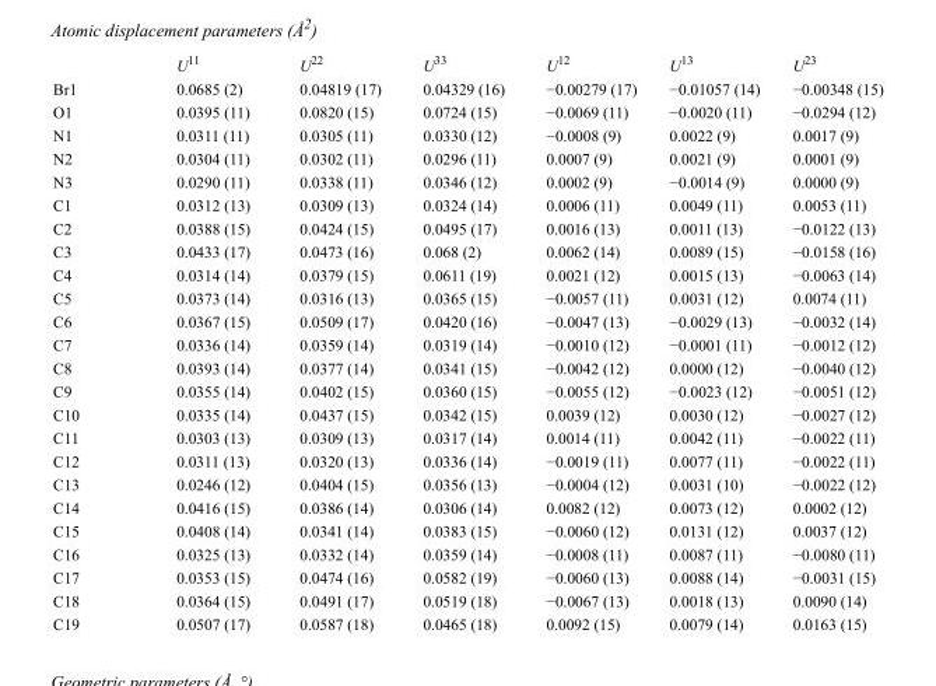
<table><thead><tr><td></td><td>U<sup>11</sup></td><td>U<sup>22</sup></td><td>U<sup>33</sup></td><td>U<sup>12</sup></td><td>U<sup>13</sup></td><td>U<sup>23</sup></td></tr></thead><tbody><tr><td>Br1</td><td>0.0685 (2)</td><td>0.04819 (17)</td><td>0.04329 (16)</td><td>−0.00279 (17)</td><td>−0.01057 (14)</td><td>−0.00348 (15)</td></tr><tr><td>O1</td><td>0.0395 (11)</td><td>0.0820 (15)</td><td>0.0724 (15)</td><td>−0.0069 (11)</td><td>−0.0020 (11)</td><td>−0.0294 (12)</td></tr><tr><td>N1</td><td>0.0311 (11)</td><td>0.0305 (11)</td><td>0.0330 (12)</td><td>−0.0008 (9)</td><td>0.0022 (9)</td><td>0.0017 (9)</td></tr><tr><td>N2</td><td>0.0304 (11)</td><td>0.0302 (11)</td><td>0.0296 (11)</td><td>0.0007 (9)</td><td>0.0021 (9)</td><td>0.0001 (9)</td></tr><tr><td>N3</td><td>0.0290 (11)</td><td>0.0338 (11)</td><td>0.0346 (12)</td><td>0.0002 (9)</td><td>−0.0014 (9)</td><td>0.0000 (9)</td></tr><tr><td>C1</td><td>0.0312 (13)</td><td>0.0309 (13)</td><td>0.0324 (14)</td><td>0.0006 (11)</td><td>0.0049 (11)</td><td>0.0053 (11)</td></tr><tr><td>C2</td><td>0.0388 (15)</td><td>0.0424 (15)</td><td>0.0495 (17)</td><td>0.0016 (13)</td><td>0.0011 (13)</td><td>−0.0122 (13)</td></tr><tr><td>C3</td><td>0.0433 (17)</td><td>0.0473 (16)</td><td>0.068 (2)</td><td>0.0062 (14)</td><td>0.0089 (15)</td><td>−0.0158 (16)</td></tr><tr><td>C4</td><td>0.0314 (14)</td><td>0.0379 (15)</td><td>0.0611 (19)</td><td>0.0021 (12)</td><td>0.0015 (13)</td><td>−0.0063 (14)</td></tr><tr><td>C5</td><td>0.0373 (14)</td><td>0.0316 (13)</td><td>0.0365 (15)</td><td>−0.0057 (11)</td><td>0.0031 (12)</td><td>0.0074 (11)</td></tr><tr><td>C6</td><td>0.0367 (15)</td><td>0.0509 (17)</td><td>0.0420 (16)</td><td>−0.0047 (13)</td><td>−0.0029 (13)</td><td>−0.0032 (14)</td></tr><tr><td>C7</td><td>0.0336 (14)</td><td>0.0359 (14)</td><td>0.0319 (14)</td><td>−0.0010 (12)</td><td>−0.0001 (11)</td><td>−0.0012 (12)</td></tr><tr><td>C8</td><td>0.0393 (14)</td><td>0.0377 (14)</td><td>0.0341 (15)</td><td>−0.0042 (12)</td><td>0.0000 (12)</td><td>−0.0040 (12)</td></tr><tr><td>C9</td><td>0.0355 (14)</td><td>0.0402 (15)</td><td>0.0360 (15)</td><td>−0.0055 (12)</td><td>−0.0023 (12)</td><td>−0.0051 (12)</td></tr><tr><td>C10</td><td>0.0335 (14)</td><td>0.0437 (15)</td><td>0.0342 (15)</td><td>0.0039 (12)</td><td>0.0030 (12)</td><td>−0.0027 (12)</td></tr><tr><td>C11</td><td>0.0303 (13)</td><td>0.0309 (13)</td><td>0.0317 (14)</td><td>0.0014 (11)</td><td>0.0042 (11)</td><td>−0.0022 (11)</td></tr><tr><td>C12</td><td>0.0311 (13)</td><td>0.0320 (13)</td><td>0.0336 (14)</td><td>−0.0019 (11)</td><td>0.0077 (11)</td><td>−0.0022 (11)</td></tr><tr><td>C13</td><td>0.0246 (12)</td><td>0.0404 (15)</td><td>0.0356 (13)</td><td>−0.0004 (12)</td><td>0.0031 (10)</td><td>−0.0022 (12)</td></tr><tr><td>C14</td><td>0.0416 (15)</td><td>0.0386 (14)</td><td>0.0306 (14)</td><td>0.0082 (12)</td><td>0.0073 (12)</td><td>0.0002 (12)</td></tr><tr><td>C15</td><td>0.0408 (14)</td><td>0.0341 (14)</td><td>0.0383 (15)</td><td>−0.0060 (12)</td><td>0.0131 (12)</td><td>0.0037 (12)</td></tr><tr><td>C16</td><td>0.0325 (13)</td><td>0.0332 (14)</td><td>0.0359 (14)</td><td>−0.0008 (11)</td><td>0.0087 (11)</td><td>−0.0080 (11)</td></tr><tr><td>C17</td><td>0.0353 (15)</td><td>0.0474 (16)</td><td>0.0582 (19)</td><td>−0.0060 (13)</td><td>0.0088 (14)</td><td>−0.0031 (15)</td></tr><tr><td>C18</td><td>0.0364 (15)</td><td>0.0491 (17)</td><td>0.0519 (18)</td><td>−0.0067 (13)</td><td>0.0018 (13)</td><td>0.0090 (14)</td></tr><tr><td>C19</td><td>0.0507 (17)</td><td>0.0587 (18)</td><td>0.0465 (18)</td><td>0.0092 (15)</td><td>0.0079 (14)</td><td>0.0163 (15)</td></tr></tbody></table>